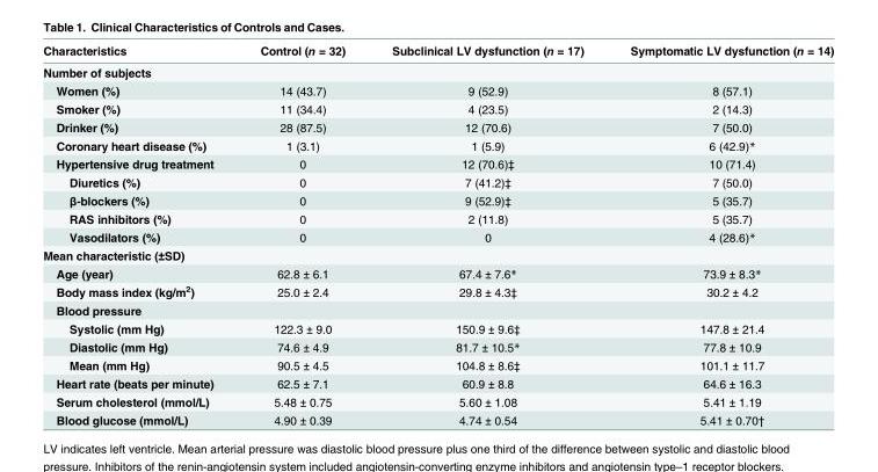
<table><thead><tr><td>Characteristics</td><td>Control (n = 32)</td><td>Subclinical LV dysfunction (n = 17)</td><td>Symptomatic LV dysfunction (n = 14)</td></tr></thead><tbody><tr><td colspan="4">Number of subjects</td></tr><tr><td>Women (%)</td><td>14 (43.7)</td><td>9 (52.9)</td><td>8 (57.1)</td></tr><tr><td>Smoker (%)</td><td>11 (34.4)</td><td>4 (23.5)</td><td>2 (14.3)</td></tr><tr><td>Drinker (%)</td><td>28 (87.5)</td><td>12 (70.6)</td><td>7 (50.0)</td></tr><tr><td>Coronary heart disease (%)</td><td>1 (3.1)</td><td>1 (5.9)</td><td>6 (42.9)*</td></tr><tr><td>Hypertensive drug treatment</td><td>0</td><td>12 (70.6)‡</td><td>10 (71.4)</td></tr><tr><td>Diuretics (%)</td><td>0</td><td>7 (41.2)‡</td><td>7 (50.0)</td></tr><tr><td>β-blockers (%)</td><td>0</td><td>9 (52.9)‡</td><td>5 (35.7)</td></tr><tr><td>RAS inhibitors (%)</td><td>0</td><td>2 (11.8)</td><td>5 (35.7)</td></tr><tr><td>Vasodilators (%)</td><td>0</td><td>0</td><td>4 (28.6)*</td></tr><tr><td colspan="4">Mean characteristic (±SD)</td></tr><tr><td>Age (year)</td><td>62.8 ± 6.1</td><td>67.4 ± 7.6*</td><td>73.9 ± 8.3*</td></tr><tr><td>Body mass index (kg/m<sup>2</sup>)</td><td>25.0 ± 2.4</td><td>29.8 ± 4.3‡</td><td>30.2 ± 4.2</td></tr><tr><td colspan="4">Blood pressure</td></tr><tr><td>Systolic (mm Hg)</td><td>122.3 ± 9.0</td><td>150.9 ± 9.6‡</td><td>147.8 ± 21.4</td></tr><tr><td>Diastolic (mm Hg)</td><td>74.6 ± 4.9</td><td>81.7 ± 10.5*</td><td>77.8 ± 10.9</td></tr><tr><td>Mean (mm Hg)</td><td>90.5 ± 4.5</td><td>104.8 ± 8.6‡</td><td>101.1 ± 11.7</td></tr><tr><td>Heart rate (beats per minute)</td><td>62.5 ± 7.1</td><td>60.9 ± 8.8</td><td>64.6 ± 16.3</td></tr><tr><td>Serum cholesterol (mmol/L)</td><td>5.48 ± 0.75</td><td>5.60 ± 1.08</td><td>5.41 ± 1.19</td></tr><tr><td>Blood glucose (mmol/L)</td><td>4.90 ± 0.39</td><td>4.74 ± 0.54</td><td>5.41 ± 0.70†</td></tr></tbody></table>